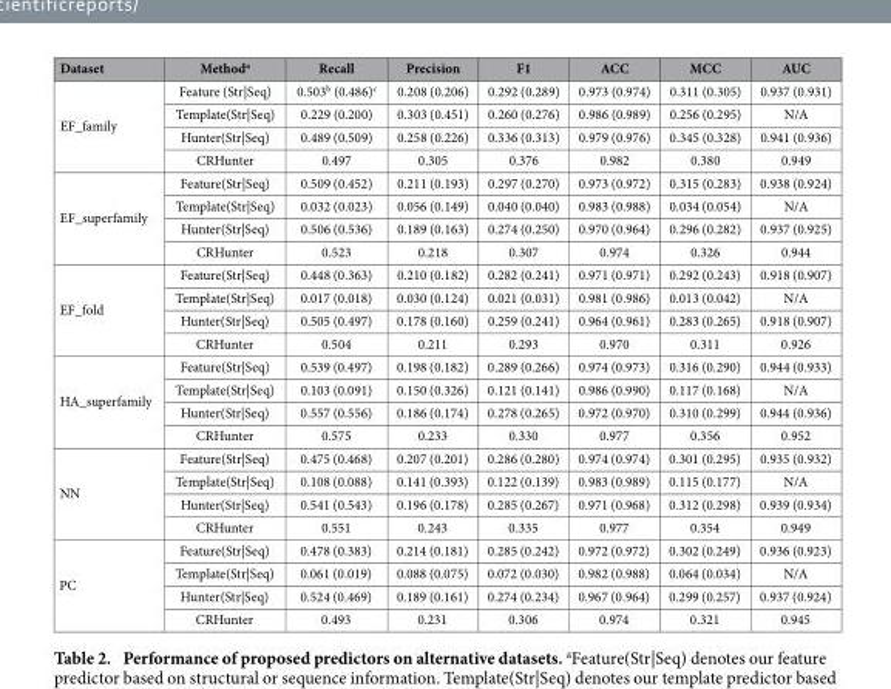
<table><thead><tr><td>Dataset</td><td>Method<sup>a</sup></td><td>Recall</td><td>Precision</td><td>F1</td><td>ACC</td><td>MCC</td><td>AUC</td></tr></thead><tbody><tr><td rowspan="4">EF_family</td><td>Feature (Str|Seq)</td><td>0.503<sup>b</sup> (0.486)<sup>c</sup></td><td>0.208 (0.206)</td><td>0.292 (0.289)</td><td>0.973 (0.974)</td><td>0.311 (0.305)</td><td>0.937 (0.931)</td></tr><tr><td>Template(Str|Seq)</td><td>0.229 (0.200)</td><td>0.303 (0.451)</td><td>0.260 (0.276)</td><td>0.986 (0.989)</td><td>0.256 (0.295)</td><td>N/A</td></tr><tr><td>Hunter(Str|Seq)</td><td>0.489 (0.509)</td><td>0.258 (0.226)</td><td>0.336 (0.313)</td><td>0.979 (0.976)</td><td>0.345 (0.328)</td><td>0.941 (0.936)</td></tr><tr><td>CRHunter</td><td>0.497</td><td>0.305</td><td>0.376</td><td>0.982</td><td>0.380</td><td>0.949</td></tr><tr><td rowspan="4">EF_superfamily</td><td>Feature(Str|Seq)</td><td>0.509 (0.452)</td><td>0.211 (0.193)</td><td>0.297 (0.270)</td><td>0.973 (0.972)</td><td>0.315 (0.283)</td><td>0.938 (0.924)</td></tr><tr><td>Template(Str|Seq)</td><td>0.032 (0.023)</td><td>0.056 (0.149)</td><td>0.040 (0.040)</td><td>0.983 (0.988)</td><td>0.034 (0.054)</td><td>N/A</td></tr><tr><td>Hunter(Str|Seq)</td><td>0.506 (0.536)</td><td>0.189 (0.163)</td><td>0.274 (0.250)</td><td>0.970 (0.964)</td><td>0.296 (0.282)</td><td>0.937 (0.925)</td></tr><tr><td>CRHunter</td><td>0.523</td><td>0.218</td><td>0.307</td><td>0.974</td><td>0.326</td><td>0.944</td></tr><tr><td rowspan="4">EF_fold</td><td>Feature(Str|Seq)</td><td>0.448 (0.363)</td><td>0.210 (0.182)</td><td>0.282 (0.241)</td><td>0.971 (0.971)</td><td>0.292 (0.243)</td><td>0.918 (0.907)</td></tr><tr><td>Template(Str|Seq)</td><td>0.017 (0.018)</td><td>0.030 (0.124)</td><td>0.021 (0.031)</td><td>0.981 (0.986)</td><td>0.013 (0.042)</td><td>N/A</td></tr><tr><td>Hunter(Str|Seq)</td><td>0.505 (0.497)</td><td>0.178 (0.160)</td><td>0.259 (0.241)</td><td>0.964 (0.961)</td><td>0.283 (0.265)</td><td>0.918 (0.907)</td></tr><tr><td>CRHunter</td><td>0.504</td><td>0.211</td><td>0.293</td><td>0.970</td><td>0.311</td><td>0.926</td></tr><tr><td rowspan="4">HA_superfamily</td><td>Feature(Str|Seq)</td><td>0.539 (0.497)</td><td>0.198 (0.182)</td><td>0.289 (0.266)</td><td>0.974 (0.973)</td><td>0.316 (0.290)</td><td>0.944 (0.933)</td></tr><tr><td>Template(Str|Seq)</td><td>0.103 (0.091)</td><td>0.150 (0.326)</td><td>0.121 (0.141)</td><td>0.986 (0.990)</td><td>0.117 (0.168)</td><td>N/A</td></tr><tr><td>Hunter(Str|Seq)</td><td>0.557 (0.556)</td><td>0.186 (0.174)</td><td>0.278 (0.265)</td><td>0.972 (0.970)</td><td>0.310 (0.299)</td><td>0.944 (0.936)</td></tr><tr><td>CRHunter</td><td>0.575</td><td>0.233</td><td>0.330</td><td>0.977</td><td>0.356</td><td>0.952</td></tr><tr><td rowspan="4">NN</td><td>Feature(Str|Seq)</td><td>0.475 (0.468)</td><td>0.207 (0.201)</td><td>0.286 (0.280)</td><td>0.974 (0.974)</td><td>0.301 (0.295)</td><td>0.935 (0.932)</td></tr><tr><td>Template(Str|Seq)</td><td>0.108 (0.088)</td><td>0.141 (0.393)</td><td>0.122 (0.139)</td><td>0.983 (0.989)</td><td>0.115 (0.177)</td><td>N/A</td></tr><tr><td>Hunter(Str|Seq)</td><td>0.541 (0.543)</td><td>0.196 (0.178)</td><td>0.285 (0.267)</td><td>0.971 (0.968)</td><td>0.312 (0.298)</td><td>0.939 (0.934)</td></tr><tr><td>CRHunter</td><td>0.551</td><td>0.243</td><td>0.335</td><td>0.977</td><td>0.354</td><td>0.949</td></tr><tr><td rowspan="4">PC</td><td>Feature(Str|Seq)</td><td>0.478 (0.383)</td><td>0.214 (0.181)</td><td>0.285 (0.242)</td><td>0.972 (0.972)</td><td>0.302 (0.249)</td><td>0.936 (0.923)</td></tr><tr><td>Template(Str|Seq)</td><td>0.061 (0.019)</td><td>0.088 (0.075)</td><td>0.072 (0.030)</td><td>0.982 (0.988)</td><td>0.064 (0.034)</td><td>N/A</td></tr><tr><td>Hunter(Str|Seq)</td><td>0.524 (0.469)</td><td>0.189 (0.161)</td><td>0.274 (0.234)</td><td>0.967 (0.964)</td><td>0.299 (0.257)</td><td>0.937 (0.924)</td></tr><tr><td>CRHunter</td><td>0.493</td><td>0.231</td><td>0.306</td><td>0.974</td><td>0.321</td><td>0.945</td></tr></tbody></table>